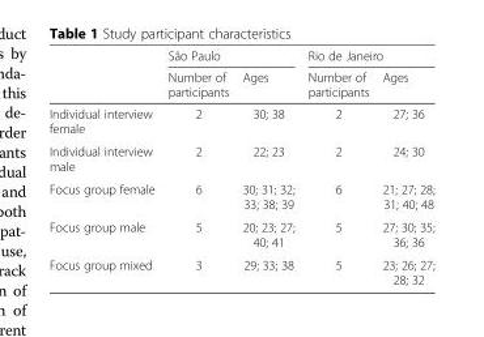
<table><thead><tr><td rowspan="2"></td><td colspan="2">São Paulo</td><td colspan="2">Rio de Janeiro</td></tr><tr><td>Number of participants</td><td>Ages</td><td>Number of participants</td><td>Ages</td></tr></thead><tbody><tr><td>Individual interview female</td><td>2</td><td>30; 38</td><td>2</td><td>27; 36</td></tr><tr><td>Individual interview male</td><td>2</td><td>22; 23</td><td>2</td><td>24; 30</td></tr><tr><td>Focus group female</td><td>6</td><td>30; 31; 32; 33; 38; 39</td><td>6</td><td>21; 27; 28; 31; 40; 48</td></tr><tr><td>Focus group male</td><td>5</td><td>20; 23; 27; 40; 41</td><td>5</td><td>27; 30; 35; 36; 36</td></tr><tr><td>Focus group mixed</td><td>3</td><td>29; 33; 38</td><td>5</td><td>23; 26; 27; 28; 32</td></tr></tbody></table>